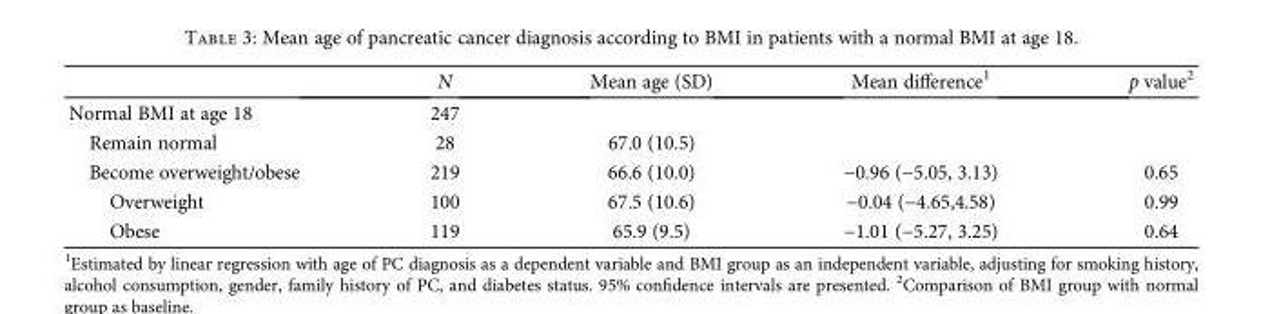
<table><thead><tr><td></td><td>N</td><td>Mean age (SD)</td><td>Mean difference<sup>1</sup></td><td>p value<sup>2</sup></td></tr></thead><tbody><tr><td>Normal BMI at age 18</td><td>247</td><td></td><td></td><td></td></tr><tr><td>Remain normal</td><td>28</td><td>67.0 (10.5)</td><td></td><td></td></tr><tr><td>Become overweight/obese</td><td>219</td><td>66.6 (10.0)</td><td>−0.96 (−5.05, 3.13)</td><td>0.65</td></tr><tr><td>Overweight</td><td>100</td><td>67.5 (10.6)</td><td>−0.04 (−4.65,4.58)</td><td>0.99</td></tr><tr><td>Obese</td><td>119</td><td>65.9 (9.5)</td><td>−1.01 (−5.27, 3.25)</td><td>0.64</td></tr></tbody></table>